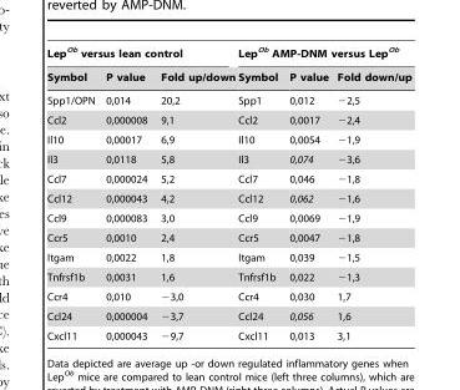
<table><thead><tr><td colspan="3">Lep<sup>Ob</sup> versus lean control</td><td colspan="3">Lep<sup>Ob</sup> AMP-DNM versus Lep<sup>Ob</sup></td></tr><tr><td>Symbol</td><td>P value</td><td>Fold up/down</td><td>Symbol</td><td>P value</td><td>Fold down/up</td></tr></thead><tbody><tr><td>Spp1/OPN</td><td>0,014</td><td>20,2</td><td>Spp1</td><td>0,012</td><td>−2,5</td></tr><tr><td>Ccl2</td><td>0,000008</td><td>9,1</td><td>Ccl2</td><td>0,0017</td><td>−2,4</td></tr><tr><td>Il10</td><td>0,00017</td><td>6,9</td><td>Il10</td><td>0,0054</td><td>−1,9</td></tr><tr><td>Il3</td><td>0,0118</td><td>5,8</td><td>Il3</td><td>0,074</td><td>−3,6</td></tr><tr><td>Ccl7</td><td>0,000024</td><td>5,2</td><td>Ccl7</td><td>0,046</td><td>−1,8</td></tr><tr><td>Ccl12</td><td>0,000043</td><td>4,2</td><td>Ccl12</td><td>0,062</td><td>−1,6</td></tr><tr><td>Ccl9</td><td>0,000083</td><td>3,0</td><td>Ccl9</td><td>0,0069</td><td>−1,9</td></tr><tr><td>Ccr5</td><td>0,0010</td><td>2,4</td><td>Ccr5</td><td>0,0047</td><td>−1,8</td></tr><tr><td>Itgam</td><td>0,0022</td><td>1,8</td><td>Itgam</td><td>0,039</td><td>−1,5</td></tr><tr><td>Tnfrsf1b</td><td>0,0031</td><td>1,6</td><td>Tnfrsf1b</td><td>0,022</td><td>−1,3</td></tr><tr><td>Ccr4</td><td>0,010</td><td>−3,0</td><td>Ccr4</td><td>0,030</td><td>1,7</td></tr><tr><td>Ccl24</td><td>0,000004</td><td>−3,7</td><td>Ccl24</td><td>0,056</td><td>1,6</td></tr><tr><td>Cxcl11</td><td>0,000043</td><td>−9,7</td><td>Cxcl11</td><td>0,013</td><td>3,1</td></tr></tbody></table>